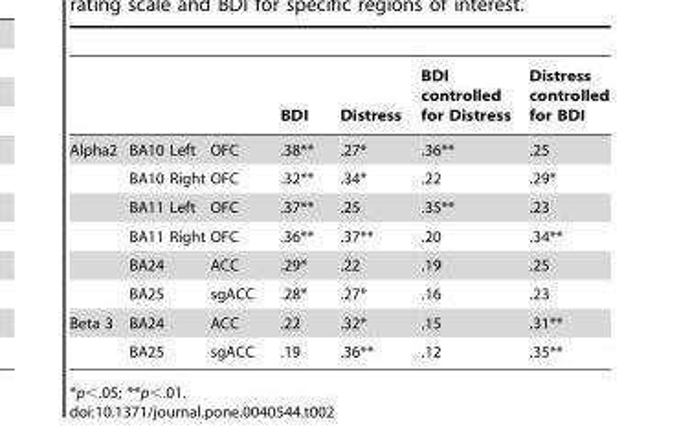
<table><thead><tr><td></td><td></td><td></td><td>BDI</td><td>Distress</td><td>BDI controlled for Distress</td><td>Distress controlled for BDI</td></tr></thead><tbody><tr><td rowspan="6">Alpha2</td><td>BA10 Left</td><td>OFC</td><td>.38**</td><td>.27*</td><td>.36**</td><td>.25</td></tr><tr><td>BA10 Right</td><td>OFC</td><td>.32**</td><td>.34*</td><td>.22</td><td>.29*</td></tr><tr><td>BA11 Left</td><td>OFC</td><td>.37**</td><td>.25</td><td>.35**</td><td>.23</td></tr><tr><td>BA11 Right</td><td>OFC</td><td>.36**</td><td>.37**</td><td>.20</td><td>.34**</td></tr><tr><td>BA24</td><td>ACC</td><td>.29*</td><td>.22</td><td>.19</td><td>.25</td></tr><tr><td>BA25</td><td>sgACC</td><td>.28*</td><td>.27*</td><td>.16</td><td>.23</td></tr><tr><td rowspan="2">Beta 3</td><td>BA24</td><td>ACC</td><td>.22</td><td>.32*</td><td>.15</td><td>.31**</td></tr><tr><td>BA25</td><td>sgACC</td><td>.19</td><td>.36**</td><td>.12</td><td>.35**</td></tr></tbody></table>